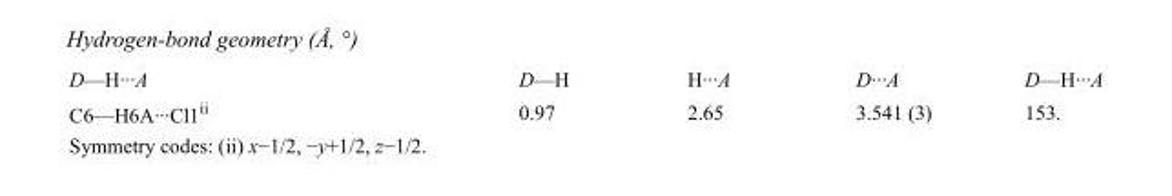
<table><tbody><tr><td>D—H···A</td><td>D—H</td><td>H···A</td><td>D···A</td><td>D—H···A</td></tr><tr><td>C6—H6A···Cl1<sup>ii</sup></td><td>0.97</td><td>2.65</td><td>3.541 (3)</td><td>153.</td></tr></tbody></table>